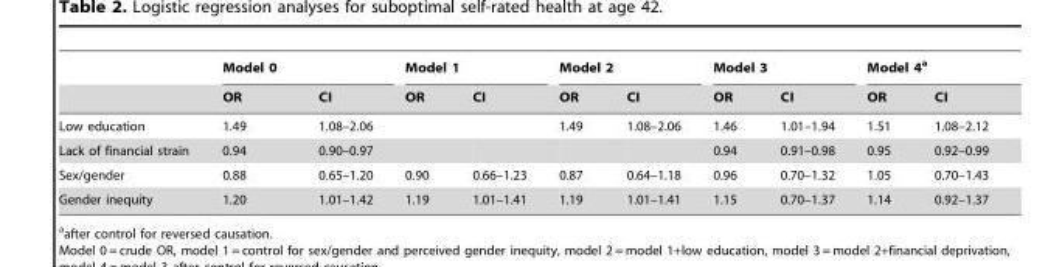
<table><thead><tr><td rowspan="2"></td><td colspan="2">Model 0</td><td colspan="2">Model 1</td><td colspan="2">Model 2</td><td colspan="2">Model 3</td><td colspan="2">Model 4<sup>a</sup></td></tr><tr><td>OR</td><td>CI</td><td>OR</td><td>CI</td><td>OR</td><td>CI</td><td>OR</td><td>CI</td><td>OR</td><td>CI</td></tr></thead><tbody><tr><td>Low education</td><td>1.49</td><td>1.08–2.06</td><td></td><td></td><td>1.49</td><td>1.08–2.06</td><td>1.46</td><td>1.01–1.94</td><td>1.51</td><td>1.08–2.12</td></tr><tr><td>Lack of financial strain</td><td>0.94</td><td>0.90–0.97</td><td></td><td></td><td></td><td></td><td>0.94</td><td>0.91–0.98</td><td>0.95</td><td>0.92–0.99</td></tr><tr><td>Sex/gender</td><td>0.88</td><td>0.65–1.20</td><td>0.90</td><td>0.66–1.23</td><td>0.87</td><td>0.64–1.18</td><td>0.96</td><td>0.70–1.32</td><td>1.05</td><td>0.70–1.43</td></tr><tr><td>Gender inequity</td><td>1.20</td><td>1.01–1.42</td><td>1.19</td><td>1.01–1.41</td><td>1.19</td><td>1.01–1.41</td><td>1.15</td><td>0.70–1.37</td><td>1.14</td><td>0.92–1.37</td></tr></tbody></table>